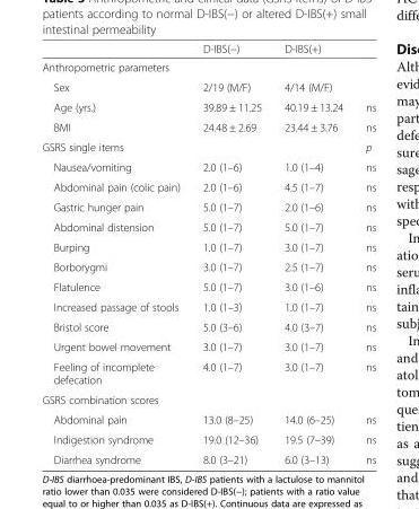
<table><thead><tr><td></td><td>D-IBS(−)</td><td>D-IBS(+)</td><td></td></tr></thead><tbody><tr><td colspan="4">Anthropometric parameters</td></tr><tr><td>Sex</td><td>2/19 (M/F)</td><td>4/14 (M/F)</td><td></td></tr><tr><td>Age (yrs.)</td><td>39.89 ± 11.25</td><td>40.19 ± 13.24</td><td>ns</td></tr><tr><td>BMI</td><td>24.48 ± 2.69</td><td>23.44 ± 3.76</td><td>ns</td></tr><tr><td>GSRS single items</td><td></td><td></td><td>p</td></tr><tr><td>Nausea/vomiting</td><td>2.0 (1–6)</td><td>1.0 (1–4)</td><td>ns</td></tr><tr><td>Abdominal pain (colic pain)</td><td>2.0 (1–6)</td><td>4.5 (1–7)</td><td>ns</td></tr><tr><td>Gastric hunger pain</td><td>5.0 (1–7)</td><td>2.0 (1–6)</td><td>ns</td></tr><tr><td>Abdominal distension</td><td>5.0 (1–7)</td><td>5.0 (1–7)</td><td>ns</td></tr><tr><td>Burping</td><td>1.0 (1–7)</td><td>3.0 (1–7)</td><td>ns</td></tr><tr><td>Borborygmi</td><td>3.0 (1–7)</td><td>2.5 (1–7)</td><td>ns</td></tr><tr><td>Flatulence</td><td>5.0 (1–7)</td><td>3.0 (1–6)</td><td>ns</td></tr><tr><td>Increased passage of stools</td><td>1.0 (1–3)</td><td>1.0 (1–7)</td><td>ns</td></tr><tr><td>Bristol score</td><td>5.0 (3–6)</td><td>4.0 (3–7)</td><td>ns</td></tr><tr><td>Urgent bowel movement</td><td>3.0 (1–7)</td><td>3.0 (1–7)</td><td>ns</td></tr><tr><td>Feeling of incomplete defecation</td><td>4.0 (1–7)</td><td>3.0 (1–7)</td><td>ns</td></tr><tr><td colspan="4">GSRS combination scores</td></tr><tr><td>Abdominal pain</td><td>13.0 (8–25)</td><td>14.0 (6–25)</td><td>ns</td></tr><tr><td>Indigestion syndrome</td><td>19.0 (12–36)</td><td>19.5 (7–39)</td><td>ns</td></tr><tr><td>Diarrhea syndrome</td><td>8.0 (3–21)</td><td>6.0 (3–13)</td><td>ns</td></tr></tbody></table>